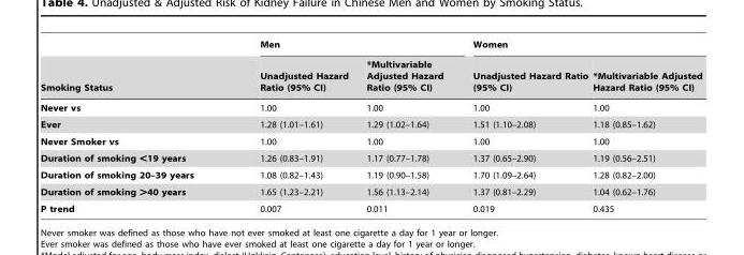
<table><thead><tr><td rowspan="2">Smoking Status</td><td colspan="2">Men</td><td colspan="2">Women</td></tr><tr><td>Unadjusted Hazard Ratio (95% CI)</td><td>*Multivariable Adjusted Hazard Ratio (95% CI)</td><td>Unadjusted Hazard Ratio (95% CI)</td><td>*Multivariable Adjusted Hazard Ratio (95% CI)</td></tr></thead><tbody><tr><td>Never vs</td><td>1.00</td><td>1.00</td><td>1.00</td><td>1.00</td></tr><tr><td>Ever</td><td>1.28 (1.01–1.61)</td><td>1.29 (1.02–1.64)</td><td>1.51 (1.10–2.08)</td><td>1.18 (0.85–1.62)</td></tr><tr><td>Never Smoker vs</td><td>1.00</td><td>1.00</td><td>1.00</td><td>1.00</td></tr><tr><td>Duration of smoking &lt;19 years</td><td>1.26 (0.83–1.91)</td><td>1.17 (0.77–1.78)</td><td>1.37 (0.65–2.90)</td><td>1.19 (0.56–2.51)</td></tr><tr><td>Duration of smoking 20–39 years</td><td>1.08 (0.82–1.43)</td><td>1.19 (0.90–1.58)</td><td>1.70 (1.09–2.64)</td><td>1.28 (0.82–2.00)</td></tr><tr><td>Duration of smoking &gt;40 years</td><td>1.65 (1.23–2.21)</td><td>1.56 (1.13–2.14)</td><td>1.37 (0.81–2.29)</td><td>1.04 (0.62–1.76)</td></tr><tr><td>P trend</td><td>0.007</td><td>0.011</td><td>0.019</td><td>0.435</td></tr></tbody></table>